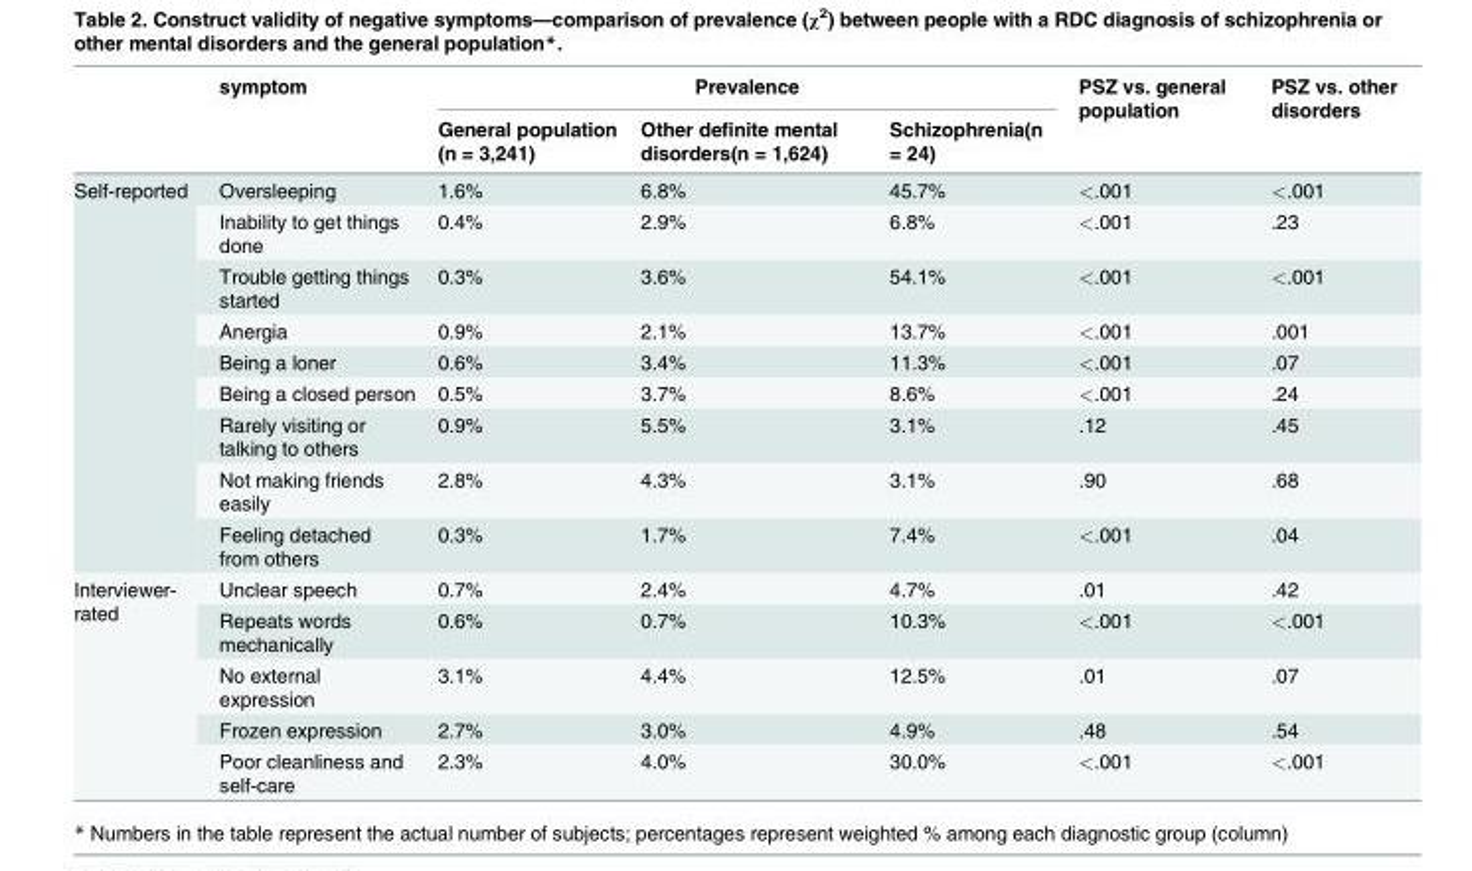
<table><thead><tr><td rowspan="2"></td><td rowspan="2">symptom</td><td colspan="3">Prevalence</td><td rowspan="2">PSZ vs. general population</td><td rowspan="2">PSZ vs. other disorders</td></tr><tr><td>General population (n = 3,241)</td><td>Other definite mental disorders(n = 1,624)</td><td>Schizophrenia(n = 24)</td></tr></thead><tbody><tr><td rowspan="9">Self-reported</td><td>Oversleeping</td><td>1.6%</td><td>6.8%</td><td>45.7%</td><td>&lt;.001</td><td>&lt;.001</td></tr><tr><td>Inability to get things done</td><td>0.4%</td><td>2.9%</td><td>6.8%</td><td>&lt;.001</td><td>.23</td></tr><tr><td>Trouble getting things started</td><td>0.3%</td><td>3.6%</td><td>54.1%</td><td>&lt;.001</td><td>&lt;.001</td></tr><tr><td>Anergia</td><td>0.9%</td><td>2.1%</td><td>13.7%</td><td>&lt;.001</td><td>.001</td></tr><tr><td>Being a loner</td><td>0.6%</td><td>3.4%</td><td>11.3%</td><td>&lt;.001</td><td>.07</td></tr><tr><td>Being a closed person</td><td>0.5%</td><td>3.7%</td><td>8.6%</td><td>&lt;.001</td><td>.24</td></tr><tr><td>Rarely visiting or talking to others</td><td>0.9%</td><td>5.5%</td><td>3.1%</td><td>.12</td><td>.45</td></tr><tr><td>Not making friends easily</td><td>2.8%</td><td>4.3%</td><td>3.1%</td><td>.90</td><td>.68</td></tr><tr><td>Feeling detached from others</td><td>0.3%</td><td>1.7%</td><td>7.4%</td><td>&lt;.001</td><td>.04</td></tr><tr><td rowspan="5">Interviewer- rated</td><td>Unclear speech</td><td>0.7%</td><td>2.4%</td><td>4.7%</td><td>.01</td><td>.42</td></tr><tr><td>Repeats words mechanically</td><td>0.6%</td><td>0.7%</td><td>10.3%</td><td>&lt;.001</td><td>&lt;.001</td></tr><tr><td>No external expression</td><td>3.1%</td><td>4.4%</td><td>12.5%</td><td>.01</td><td>.07</td></tr><tr><td>Frozen expression</td><td>2.7%</td><td>3.0%</td><td>4.9%</td><td>.48</td><td>.54</td></tr><tr><td>Poor cleanliness and self-care</td><td>2.3%</td><td>4.0%</td><td>30.0%</td><td>&lt;.001</td><td>&lt;.001</td></tr></tbody></table>